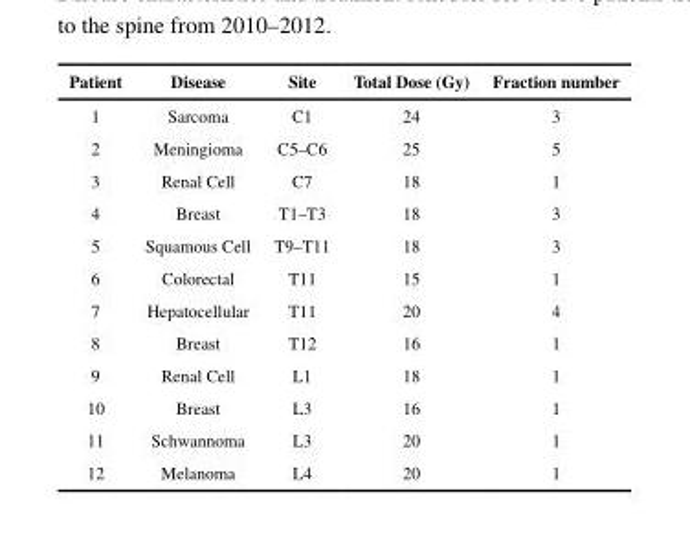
<table><thead><tr><td>Patient</td><td>Disease</td><td>Site</td><td>Total Dose (Gy)</td><td>Fraction number</td></tr></thead><tbody><tr><td>1</td><td>Sarcoma</td><td>C1</td><td>24</td><td>3</td></tr><tr><td>2</td><td>Meningioma</td><td>C5–C6</td><td>25</td><td>5</td></tr><tr><td>3</td><td>Renal Cell</td><td>C7</td><td>18</td><td>1</td></tr><tr><td>4</td><td>Breast</td><td>T1–T3</td><td>18</td><td>3</td></tr><tr><td>5</td><td>Squamous Cell</td><td>T9–T11</td><td>18</td><td>3</td></tr><tr><td>6</td><td>Colorectal</td><td>T11</td><td>15</td><td>1</td></tr><tr><td>7</td><td>Hepatocellular</td><td>T11</td><td>20</td><td>4</td></tr><tr><td>8</td><td>Breast</td><td>T12</td><td>16</td><td>1</td></tr><tr><td>9</td><td>Renal Cell</td><td>L1</td><td>18</td><td>1</td></tr><tr><td>10</td><td>Breast</td><td>L3</td><td>16</td><td>1</td></tr><tr><td>11</td><td>Schwannoma</td><td>L3</td><td>20</td><td>1</td></tr><tr><td>12</td><td>Melanoma</td><td>L4</td><td>20</td><td>1</td></tr></tbody></table>